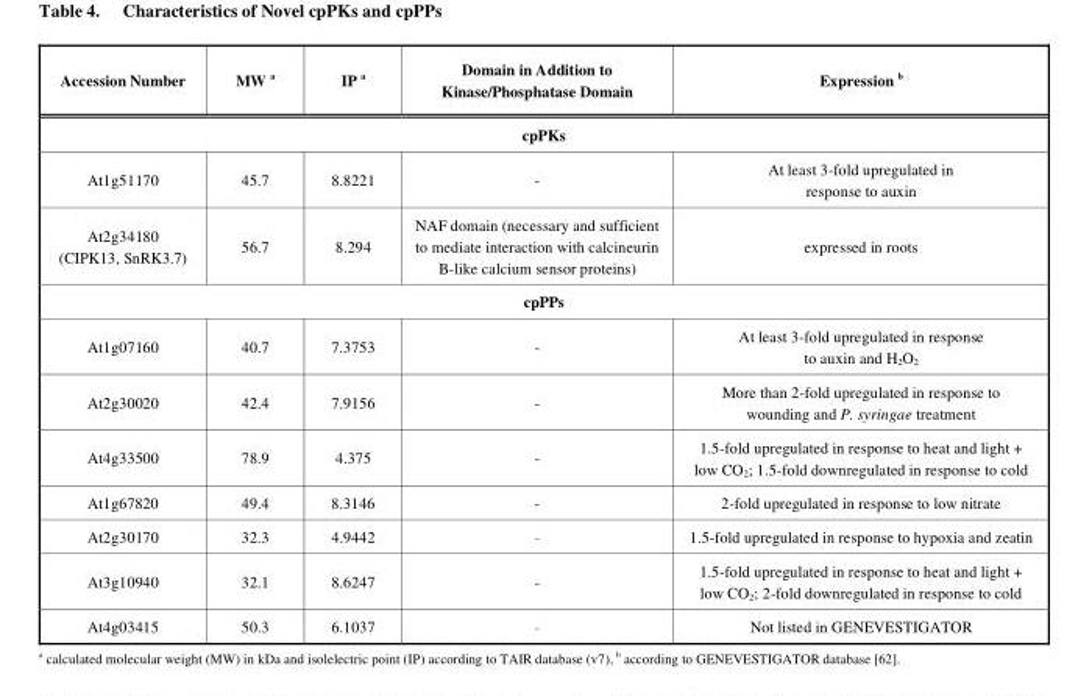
<table><thead><tr><td>Accession Number</td><td>MW <sup>a</sup></td><td>IP <sup>a</sup></td><td>Domain in Addition to Kinase/Phosphatase Domain</td><td>Expression b</td></tr><tr><td colspan="5">cpPKs</td></tr></thead><tbody><tr><td>At1g51170</td><td>45.7</td><td>8.8221</td><td>-</td><td>At least 3-fold upregulated in response to auxin</td></tr><tr><td>At2g34180 (CIPK13, SnRK3.7)</td><td>56.7</td><td>8.294</td><td>NAF domain (necessary and sufficient to mediate interaction with calcineurin B-like calcium sensor proteins)</td><td>expressed in roots</td></tr><tr><td colspan="5">cpPPs</td></tr><tr><td>At1g07160</td><td>40.7</td><td>7.3753</td><td>-</td><td>At least 3-fold upregulated in response to auxin and H<sub>2</sub>O<sub>2</sub></td></tr><tr><td>At2g30020</td><td>42.4</td><td>7.9156</td><td>-</td><td>More than 2-fold upregulated in response to wounding and P. syringae treatment</td></tr><tr><td>At4g33500</td><td>78.9</td><td>4.375</td><td>-</td><td>1.5-fold upregulated in response to heat and light + low CO<sub>2</sub>; 1.5-fold downregulated in response to cold</td></tr><tr><td>At1g67820</td><td>49.4</td><td>8.3146</td><td>-</td><td>2-fold upregulated in response to low nitrate</td></tr><tr><td>At2g30170</td><td>32.3</td><td>4.9442</td><td>-</td><td>1.5-fold upregulated in response to hypoxia and zeatin</td></tr><tr><td>At3g10940</td><td>32.1</td><td>8.6247</td><td>-</td><td>1.5-fold upregulated in response to heat and light + low CO<sub>2</sub>; 2-fold downregulated in response to cold</td></tr><tr><td>At4g03415</td><td>50.3</td><td>6.1037</td><td>-</td><td>Not listed in GENEVESTIGATOR</td></tr></tbody></table>